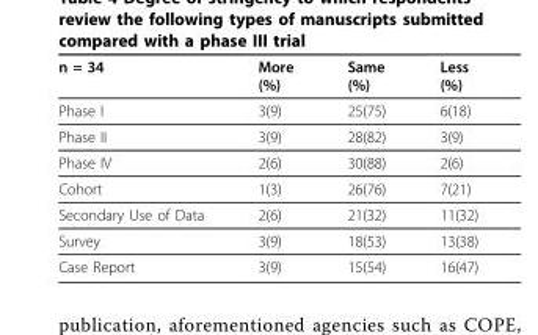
<table><thead><tr><td>n = 34</td><td>More (%)</td><td>Same (%)</td><td>Less (%)</td></tr></thead><tbody><tr><td>Phase I</td><td>3(9)</td><td>25(75)</td><td>6(18)</td></tr><tr><td>Phase II</td><td>3(9)</td><td>28(82)</td><td>3(9)</td></tr><tr><td>Phase IV</td><td>2(6)</td><td>30(88)</td><td>2(6)</td></tr><tr><td>Cohort</td><td>1(3)</td><td>26(76)</td><td>7(21)</td></tr><tr><td>Secondary Use of Data</td><td>2(6)</td><td>21(32)</td><td>11(32)</td></tr><tr><td>Survey</td><td>3(9)</td><td>18(53)</td><td>13(38)</td></tr><tr><td>Case Report</td><td>3(9)</td><td>15(54)</td><td>16(47)</td></tr></tbody></table>